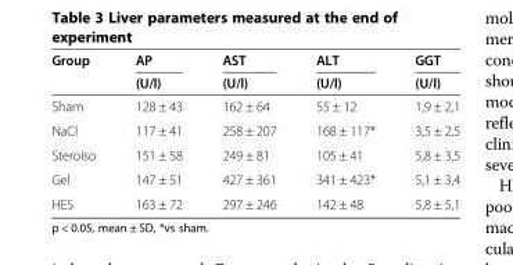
<table><thead><tr><td rowspan="2">Group</td><td rowspan="2">AP (U/l)</td><td rowspan="2">AST (U/l)</td><td rowspan="2">ALT (U/l)</td><td rowspan="2">GGT (U/l)</td></tr><tr></tr></thead><tbody><tr><td>Sham</td><td>128 ± 43</td><td>162 ± 64</td><td>55 ± 12</td><td>1,9 ± 2,1</td></tr><tr><td>NaCl</td><td>117 ± 41</td><td>258 ± 207</td><td>168 ± 117*</td><td>3,5 ± 2,5</td></tr><tr><td>SteroIso</td><td>151 ± 58</td><td>249 ± 81</td><td>105 ± 41</td><td>5,8 ± 3,5</td></tr><tr><td>Gel</td><td>147 ± 51</td><td>427 ± 361</td><td>341 ± 423*</td><td>5,1 ± 3,4</td></tr><tr><td>HES</td><td>163 ± 72</td><td>297 ± 246</td><td>142 ± 48</td><td>5,8 ± 5,1</td></tr></tbody></table>